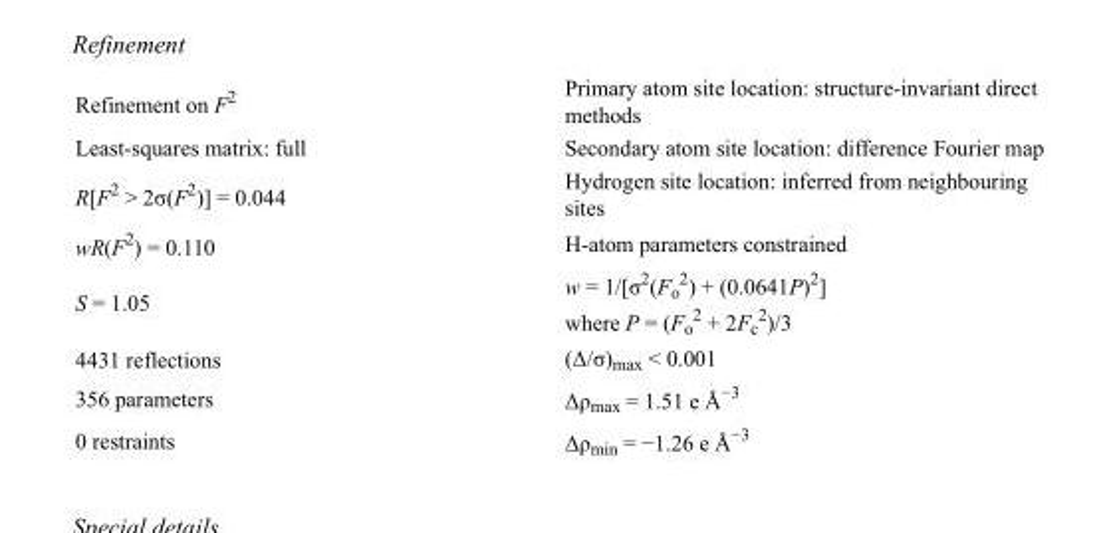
<table><tbody><tr><td>Refinement on F<sup>2</sup></td><td>Primary atom site location: structure-invariant direct methods</td></tr><tr><td>Least-squares matrix: full</td><td>Secondary atom site location: difference Fourier map</td></tr><tr><td>R[F<sup>2</sup> &gt; 2σ(F<sup>2</sup>)] = 0.044</td><td>Hydrogen site location: inferred from neighbouring sites</td></tr><tr><td>wR(F<sup>2</sup>) = 0.110</td><td>H-atom parameters constrained</td></tr><tr><td>S = 1.05</td><td>w = 1/[σ<sup>2</sup>(F<sub>o</sub> <sup>2</sup>) + (0.0641P)<sup>2</sup>] where P = (F<sub>o</sub> <sup>2</sup> + 2F<sub>c</sub> <sup>2</sup>)/3</td></tr><tr><td>4431 reflections</td><td>(Δ/σ)<sub>max</sub> &lt; 0.001</td></tr><tr><td>356 parameters</td><td>Δρ<sub>max</sub> = 1.51 e Å<sup>−3</sup></td></tr><tr><td>0 restraints</td><td>Δρ<sub>min</sub> = −1.26 e Å<sup>−3</sup></td></tr></tbody></table>